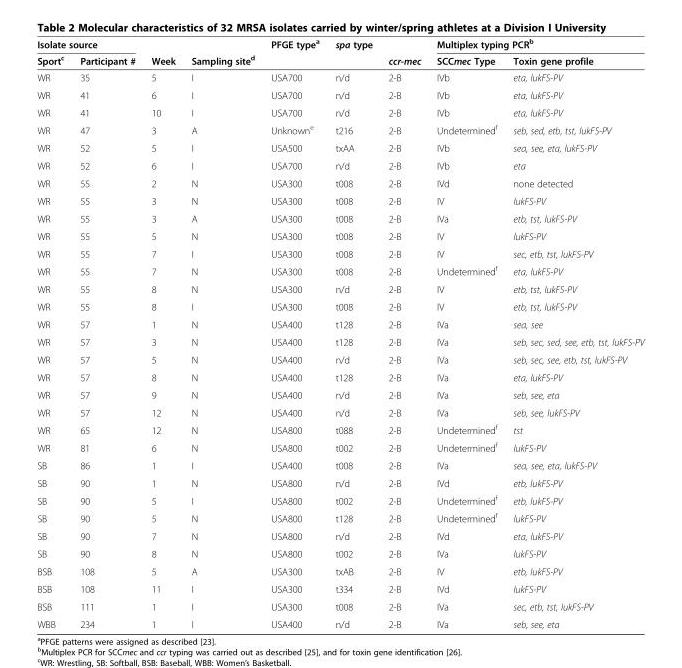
<table><thead><tr><td colspan="2">Isolate source</td><td rowspan="2">Week</td><td rowspan="2">Sampling site<sup>d</sup></td><td rowspan="2">PFGE type<sup>a</sup></td><td rowspan="2">spa type</td><td rowspan="2">ccr-mec</td><td colspan="2">Multiplex typing PCR<sup>b</sup></td></tr><tr><td>Sport<sup>c</sup></td><td>Participant #</td><td>SCCmec Type</td><td>Toxin gene profile</td></tr></thead><tbody><tr><td>WR</td><td>35</td><td>5</td><td>I</td><td>USA700</td><td>n/d</td><td>2-B</td><td>IVb</td><td>eta, lukFS-PV</td></tr><tr><td>WR</td><td>41</td><td>6</td><td>I</td><td>USA700</td><td>n/d</td><td>2-B</td><td>IVb</td><td>eta, lukFS-PV</td></tr><tr><td>WR</td><td>41</td><td>10</td><td>I</td><td>USA700</td><td>n/d</td><td>2-B</td><td>IVb</td><td>eta, lukFS-PV</td></tr><tr><td>WR</td><td>47</td><td>3</td><td>A</td><td>Unknown<sup>e</sup></td><td>t216</td><td>2-B</td><td>Undetermined<sup>f</sup></td><td>seb, sed, etb, tst, lukFS-PV</td></tr><tr><td>WR</td><td>52</td><td>5</td><td>I</td><td>USA500</td><td>txAA</td><td>2-B</td><td>IVb</td><td>sea, see, eta, lukFS-PV</td></tr><tr><td>WR</td><td>52</td><td>6</td><td>I</td><td>USA700</td><td>n/d</td><td>2-B</td><td>IVb</td><td>eta</td></tr><tr><td>WR</td><td>55</td><td>2</td><td>N</td><td>USA300</td><td>t008</td><td>2-B</td><td>IVd</td><td>none detected</td></tr><tr><td>WR</td><td>55</td><td>3</td><td>N</td><td>USA300</td><td>t008</td><td>2-B</td><td>IV</td><td>lukFS-PV</td></tr><tr><td>WR</td><td>55</td><td>3</td><td>A</td><td>USA300</td><td>t008</td><td>2-B</td><td>IVa</td><td>etb, tst, lukFS-PV</td></tr><tr><td>WR</td><td>55</td><td>5</td><td>N</td><td>USA300</td><td>t008</td><td>2-B</td><td>IV</td><td>lukFS-PV</td></tr><tr><td>WR</td><td>55</td><td>7</td><td>I</td><td>USA300</td><td>t008</td><td>2-B</td><td>IV</td><td>sec, etb, tst, lukFS-PV</td></tr><tr><td>WR</td><td>55</td><td>7</td><td>N</td><td>USA300</td><td>t008</td><td>2-B</td><td>Undetermined<sup>f</sup></td><td>eta, lukFS-PV</td></tr><tr><td>WR</td><td>55</td><td>8</td><td>N</td><td>USA300</td><td>n/d</td><td>2-B</td><td>IV</td><td>etb, tst, lukFS-PV</td></tr><tr><td>WR</td><td>55</td><td>8</td><td>I</td><td>USA300</td><td>t008</td><td>2-B</td><td>IV</td><td>etb, tst, lukFS-PV</td></tr><tr><td>WR</td><td>57</td><td>1</td><td>N</td><td>USA400</td><td>t128</td><td>2-B</td><td>IVa</td><td>sea, see</td></tr><tr><td>WR</td><td>57</td><td>3</td><td>N</td><td>USA400</td><td>t128</td><td>2-B</td><td>IVa</td><td>seb, sec, sed, see, etb, tst, lukFS-PV</td></tr><tr><td>WR</td><td>57</td><td>5</td><td>N</td><td>USA400</td><td>n/d</td><td>2-B</td><td>IVa</td><td>seb, sec, see, etb, tst, lukFS-PV</td></tr><tr><td>WR</td><td>57</td><td>8</td><td>N</td><td>USA400</td><td>t128</td><td>2-B</td><td>IVa</td><td>eta, lukFS-PV</td></tr><tr><td>WR</td><td>57</td><td>9</td><td>N</td><td>USA400</td><td>n/d</td><td>2-B</td><td>IVa</td><td>seb, see, eta</td></tr><tr><td>WR</td><td>57</td><td>12</td><td>N</td><td>USA400</td><td>n/d</td><td>2-B</td><td>IVa</td><td>seb, see, lukFS-PV</td></tr><tr><td>WR</td><td>65</td><td>12</td><td>N</td><td>USA800</td><td>t088</td><td>2-B</td><td>Undetermined<sup>f</sup></td><td>tst</td></tr><tr><td>WR</td><td>81</td><td>6</td><td>N</td><td>USA800</td><td>t002</td><td>2-B</td><td>Undetermined<sup>f</sup></td><td>lukFS-PV</td></tr><tr><td>SB</td><td>86</td><td>1</td><td>I</td><td>USA400</td><td>t008</td><td>2-B</td><td>IVa</td><td>sea, see, eta, lukFS-PV</td></tr><tr><td>SB</td><td>90</td><td>1</td><td>N</td><td>USA800</td><td>n/d</td><td>2-B</td><td>IVd</td><td>etb, lukFS-PV</td></tr><tr><td>SB</td><td>90</td><td>5</td><td>I</td><td>USA800</td><td>t002</td><td>2-B</td><td>Undetermined<sup>f</sup></td><td>etb, lukFS-PV</td></tr><tr><td>SB</td><td>90</td><td>5</td><td>N</td><td>USA800</td><td>t128</td><td>2-B</td><td>Undetermined<sup>f</sup></td><td>lukFS-PV</td></tr><tr><td>SB</td><td>90</td><td>7</td><td>N</td><td>USA800</td><td>n/d</td><td>2-B</td><td>IVd</td><td>eta, lukFS-PV</td></tr><tr><td>SB</td><td>90</td><td>8</td><td>N</td><td>USA800</td><td>t002</td><td>2-B</td><td>IVa</td><td>lukFS-PV</td></tr><tr><td>BSB</td><td>108</td><td>5</td><td>A</td><td>USA300</td><td>txAB</td><td>2-B</td><td>IV</td><td>etb, lukFS-PV</td></tr><tr><td>BSB</td><td>108</td><td>11</td><td>I</td><td>USA300</td><td>t334</td><td>2-B</td><td>IVd</td><td>lukFS-PV</td></tr><tr><td>BSB</td><td>111</td><td>1</td><td>I</td><td>USA300</td><td>t008</td><td>2-B</td><td>IVa</td><td>sec, etb, tst, lukFS-PV</td></tr><tr><td>WBB</td><td>234</td><td>1</td><td>I</td><td>USA400</td><td>n/d</td><td>2-B</td><td>IVa</td><td>seb, see, eta</td></tr></tbody></table>